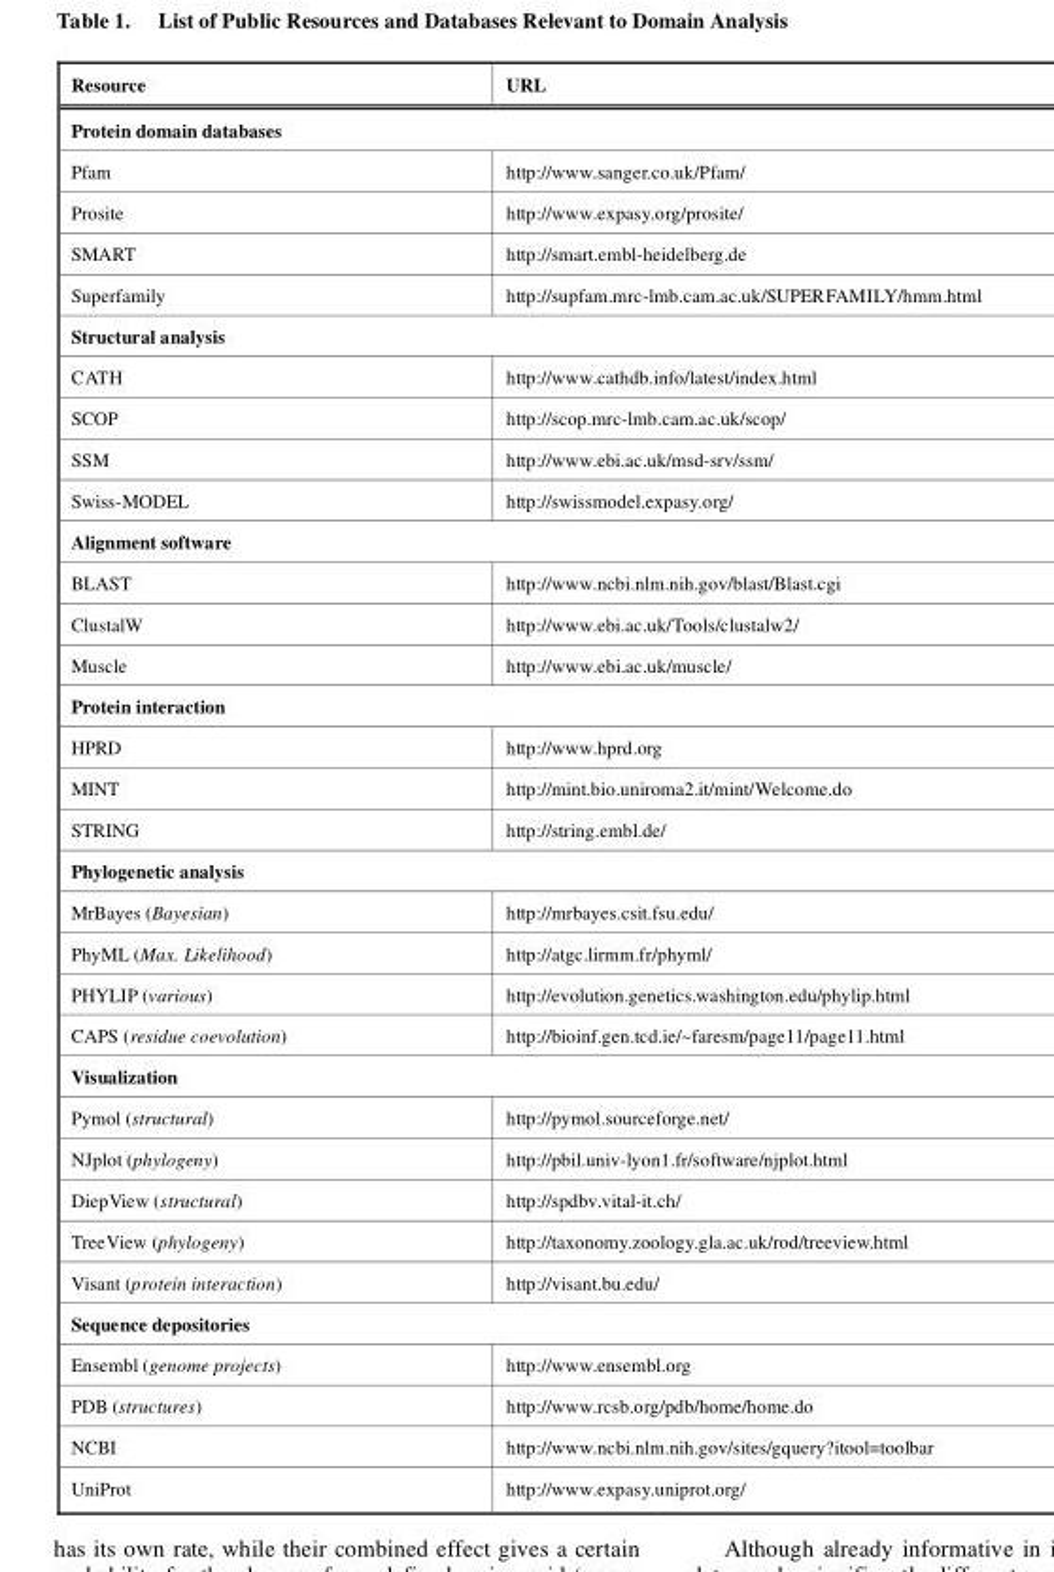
<table><thead><tr><td>Resource</td><td>URL</td></tr></thead><tbody><tr><td colspan="2">Protein domain databases</td></tr><tr><td>Pfam</td><td>http://www.sanger.co.uk/Pfam/</td></tr><tr><td>Prosite</td><td>http://www.expasy.org/prosite/</td></tr><tr><td>SMART</td><td>http://smart.embl-heidelberg.de</td></tr><tr><td>Superfamily</td><td>http://supfam.mrc-lmb.cam.ac.uk/SUPERFAMILY/hmm.html</td></tr><tr><td colspan="2">Structural analysis</td></tr><tr><td>CATH</td><td>http://www.cathdb.info/latest/index.html</td></tr><tr><td>SCOP</td><td>http://scop.mrc-lmb.cam.ac.uk/scop/</td></tr><tr><td>SSM</td><td>http://www.ebi.ac.uk/msd-srv/ssm/</td></tr><tr><td>Swiss-MODEL</td><td>http://swissmodel.expasy.org/</td></tr><tr><td colspan="2">Alignment software</td></tr><tr><td>BLAST</td><td>http://www.ncbi.nlm.nih.gov/blast/Blast.cgi</td></tr><tr><td>ClustalW</td><td>http://www.ebi.ac.uk/Tools/clustalw2/</td></tr><tr><td>Muscle</td><td>http://www.ebi.ac.uk/muscle/</td></tr><tr><td colspan="2">Protein interaction</td></tr><tr><td>HPRD</td><td>http://www.hprd.org</td></tr><tr><td>MINT</td><td>http://mint.bio.uniroma2.it/mint/Welcome.do</td></tr><tr><td>STRING</td><td>http://string.embl.de/</td></tr><tr><td colspan="2">Phylogenetic analysis</td></tr><tr><td>MrBayes (Bayesian)</td><td>http://mrbayes.csit.fsu.edu/</td></tr><tr><td>PhyML (Max. Likelihood)</td><td>http://atgc.lirmm.fr/phyml/</td></tr><tr><td>PHYLIP (various)</td><td>http://evolution.genetics.washington.edu/phylip.html</td></tr><tr><td>CAPS (residue coevolution)</td><td>http://bioinf.gen.tcd.ie/~faresm/page11/page11.html</td></tr><tr><td colspan="2">Visualization</td></tr><tr><td>Pymol (structural)</td><td>http://pymol.sourceforge.net/</td></tr><tr><td>NJplot (phylogeny)</td><td>http://pbil.univ-lyon1.fr/software/njplot.html</td></tr><tr><td>DiepView (structural)</td><td>http://spdbv.vital-it.ch/</td></tr><tr><td>TreeView (phylogeny)</td><td>http://taxonomy.zoology.gla.ac.uk/rod/treeview.html</td></tr><tr><td>Visant (protein interaction)</td><td>http://visant.bu.edu/</td></tr><tr><td colspan="2">Sequence depositories</td></tr><tr><td>Ensembl (genome projects)</td><td>http://www.ensembl.org</td></tr><tr><td>PDB (structures)</td><td>http://www.rcsb.org/pdb/home/home.do</td></tr><tr><td>NCBI</td><td>http://www.ncbi.nlm.nih.gov/sites/gquery?itool=toolbar</td></tr><tr><td>UniProt</td><td>http://www.expasy.uniprot.org/</td></tr></tbody></table>